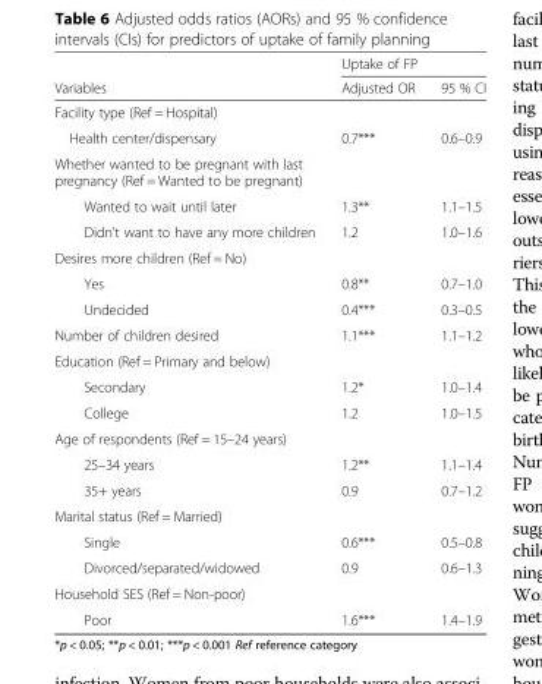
<table><thead><tr><td rowspan="2">Variables</td><td colspan="2">Uptake of FP</td></tr><tr><td>Adjusted OR</td><td>95 % CI</td></tr></thead><tbody><tr><td colspan="3">Facility type (Ref = Hospital)</td></tr><tr><td>Health center/dispensary</td><td>0.7***</td><td>0.6–0.9</td></tr><tr><td colspan="3">Whether wanted to be pregnant with last pregnancy (Ref = Wanted to be pregnant)</td></tr><tr><td>Wanted to wait until later</td><td>1.3**</td><td>1.1–1.5</td></tr><tr><td>Didn’t want to have any more children</td><td>1.2</td><td>1.0–1.6</td></tr><tr><td colspan="3">Desires more children (Ref = No)</td></tr><tr><td>Yes</td><td>0.8**</td><td>0.7–1.0</td></tr><tr><td>Undecided</td><td>0.4***</td><td>0.3–0.5</td></tr><tr><td>Number of children desired</td><td>1.1***</td><td>1.1–1.2</td></tr><tr><td colspan="3">Education (Ref = Primary and below)</td></tr><tr><td>Secondary</td><td>1.2*</td><td>1.0–1.4</td></tr><tr><td>College</td><td>1.2</td><td>1.0–1.5</td></tr><tr><td colspan="3">Age of respondents (Ref = 15–24 years)</td></tr><tr><td>25–34 years</td><td>1.2**</td><td>1.1–1.4</td></tr><tr><td>35+ years</td><td>0.9</td><td>0.7–1.2</td></tr><tr><td colspan="3">Marital status (Ref = Married)</td></tr><tr><td>Single</td><td>0.6***</td><td>0.5–0.8</td></tr><tr><td>Divorced/separated/widowed</td><td>0.9</td><td>0.6–1.3</td></tr><tr><td colspan="3">Household SES (Ref = Non-poor)</td></tr><tr><td>Poor</td><td>1.6***</td><td>1.4–1.9</td></tr></tbody></table>